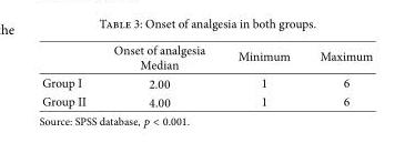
<table><thead><tr><td></td><td>Onset of analgesia Median</td><td>Minimum</td><td>Maximum</td></tr></thead><tbody><tr><td>Group I</td><td>2.00</td><td>1</td><td>6</td></tr><tr><td>Group II</td><td>4.00</td><td>1</td><td>6</td></tr></tbody></table>